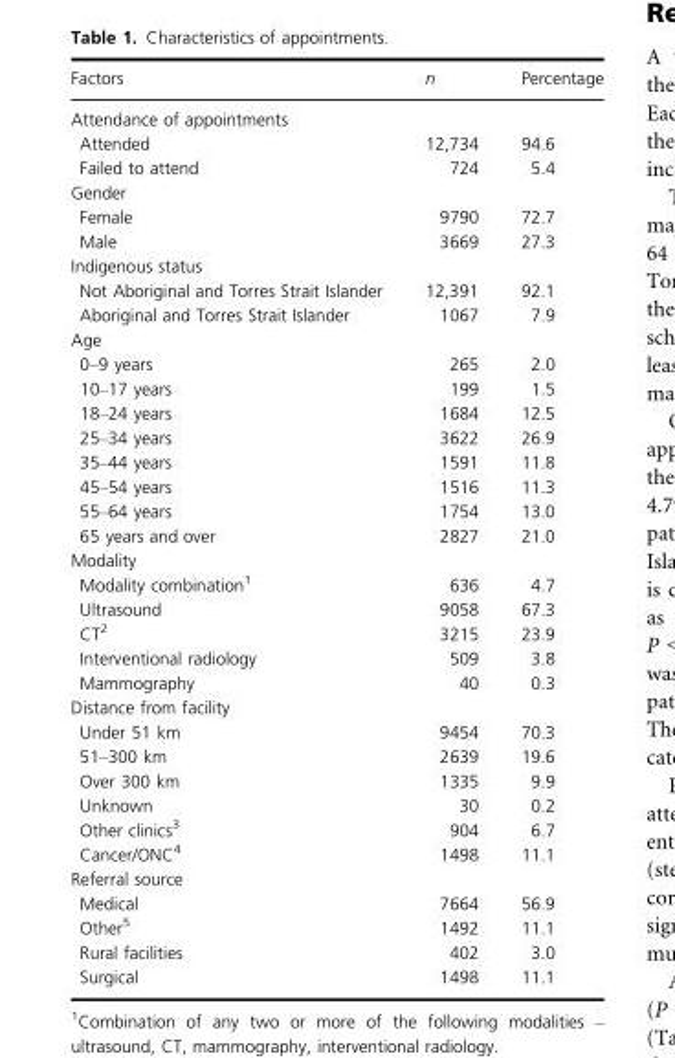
<table><thead><tr><td>Factors</td><td>n</td><td>Percentage</td></tr></thead><tbody><tr><td colspan="3">Attendance of appointments</td></tr><tr><td>Attended</td><td>12,734</td><td>94.6</td></tr><tr><td>Failed to attend</td><td>724</td><td>5.4</td></tr><tr><td colspan="3">Gender</td></tr><tr><td>Female</td><td>9790</td><td>72.7</td></tr><tr><td>Male</td><td>3669</td><td>27.3</td></tr><tr><td colspan="3">Indigenous status</td></tr><tr><td>Not Aboriginal and Torres Strait Islander</td><td>12,391</td><td>92.1</td></tr><tr><td>Aboriginal and Torres Strait Islander</td><td>1067</td><td>7.9</td></tr><tr><td colspan="3">Age</td></tr><tr><td>0–9 years</td><td>265</td><td>2.0</td></tr><tr><td>10–17 years</td><td>199</td><td>1.5</td></tr><tr><td>18–24 years</td><td>1684</td><td>12.5</td></tr><tr><td>25–34 years</td><td>3622</td><td>26.9</td></tr><tr><td>35–44 years</td><td>1591</td><td>11.8</td></tr><tr><td>45–54 years</td><td>1516</td><td>11.3</td></tr><tr><td>55–64 years</td><td>1754</td><td>13.0</td></tr><tr><td>65 years and over</td><td>2827</td><td>21.0</td></tr><tr><td colspan="3">Modality</td></tr><tr><td>Modality combination1</td><td>636</td><td>4.7</td></tr><tr><td>Ultrasound</td><td>9058</td><td>67.3</td></tr><tr><td>CT2</td><td>3215</td><td>23.9</td></tr><tr><td>Interventional radiology</td><td>509</td><td>3.8</td></tr><tr><td>Mammography</td><td>40</td><td>0.3</td></tr><tr><td colspan="3">Distance from facility</td></tr><tr><td>Under 51 km</td><td>9454</td><td>70.3</td></tr><tr><td>51–300 km</td><td>2639</td><td>19.6</td></tr><tr><td>Over 300 km</td><td>1335</td><td>9.9</td></tr><tr><td>Unknown</td><td>30</td><td>0.2</td></tr><tr><td>Other clinics3</td><td>904</td><td>6.7</td></tr><tr><td>Cancer/ONC4</td><td>1498</td><td>11.1</td></tr><tr><td colspan="3">Referral source</td></tr><tr><td>Medical</td><td>7664</td><td>56.9</td></tr><tr><td>Other5</td><td>1492</td><td>11.1</td></tr><tr><td>Rural facilities</td><td>402</td><td>3.0</td></tr><tr><td>Surgical</td><td>1498</td><td>11.1</td></tr></tbody></table>